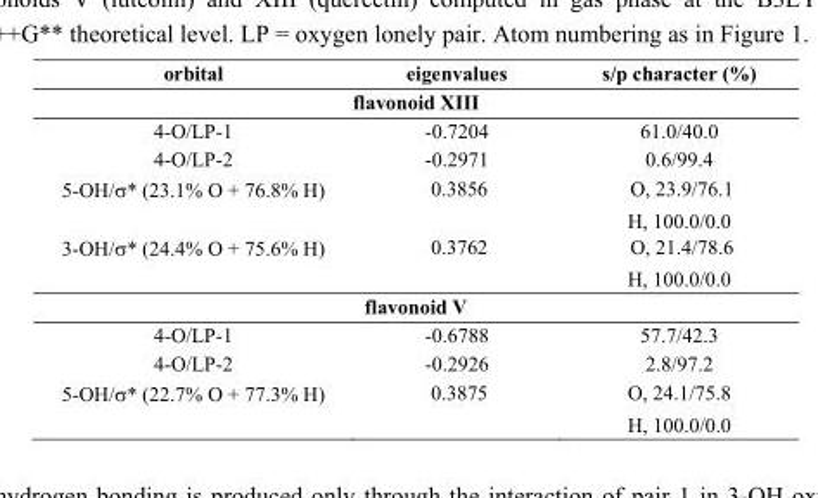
<table><thead><tr><td>orbital</td><td>eigenvalues</td><td>s/p character (%)</td></tr></thead><tbody><tr><td colspan="3">flavonoid XIII</td></tr><tr><td>4-O/LP-1</td><td>-0.7204</td><td>61.0/40.0</td></tr><tr><td>4-O/LP-2</td><td>-0.2971</td><td>0.6/99.4</td></tr><tr><td rowspan="2">5-OH/σ* (23.1% O + 76.8% H)</td><td>0.3856</td><td>O, 23.9/76.1</td></tr><tr><td></td><td>H, 100.0/0.0</td></tr><tr><td rowspan="2">3-OH/σ* (24.4% O + 75.6% H)</td><td>0.3762</td><td>O, 21.4/78.6</td></tr><tr><td></td><td>H, 100.0/0.0</td></tr><tr><td colspan="3">flavonoid V</td></tr><tr><td>4-O/LP-1</td><td>-0.6788</td><td>57.7/42.3</td></tr><tr><td>4-O/LP-2</td><td>-0.2926</td><td>2.8/97.2</td></tr><tr><td rowspan="2">5-OH/σ* (22.7% O + 77.3% H)</td><td>0.3875</td><td>O, 24.1/75.8</td></tr><tr><td></td><td>H, 100.0/0.0</td></tr></tbody></table>